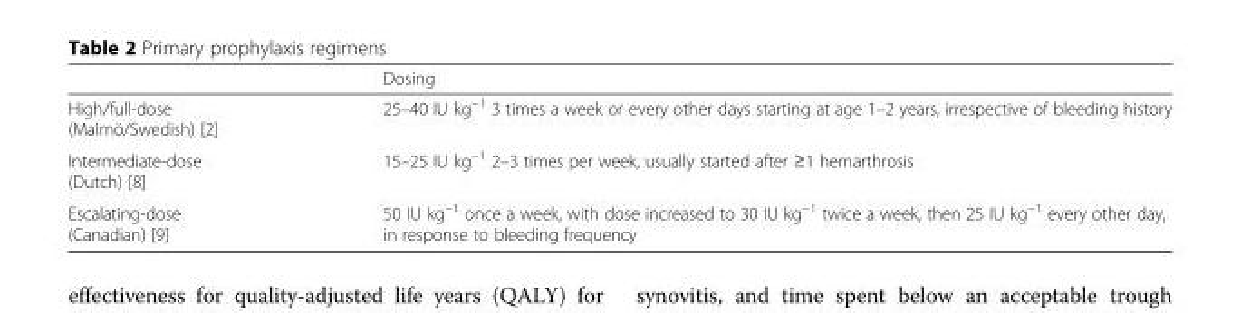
<table><thead><tr><td></td><td>Dosing</td></tr></thead><tbody><tr><td>High/full-dose (Malmö/Swedish) [2]</td><td>25–40 IU kg<sup>−1</sup> 3 times a week or every other days starting at age 1–2 years, irrespective of bleeding history</td></tr><tr><td>Intermediate-dose (Dutch) [8]</td><td>15–25 IU kg<sup>−1</sup> 2–3 times per week, usually started after ≥1 hemarthrosis</td></tr><tr><td>Escalating-dose (Canadian) [9]</td><td>50 IU kg<sup>−1</sup> once a week, with dose increased to 30 IU kg<sup>−1</sup> twice a week, then 25 IU kg<sup>−1</sup> every other day, in response to bleeding frequency</td></tr></tbody></table>